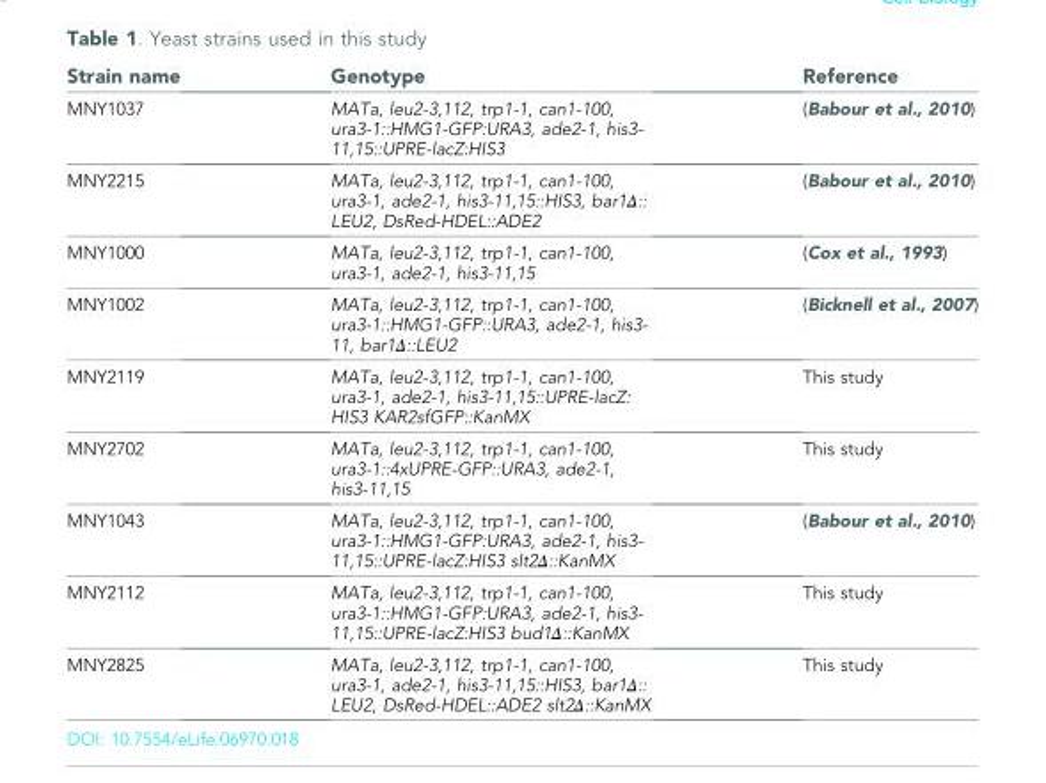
<table><thead><tr><td>Strain name</td><td>Genotype</td><td>Reference</td></tr></thead><tbody><tr><td>MNY1037</td><td>MATa, leu2-3,112, trp1-1, can1-100, ura3-1::HMG1-GFP:URA3, ade2-1, his3- 11,15::UPRE-lacZ:HIS3</td><td>(Babour et al., 2010)</td></tr><tr><td>MNY2215</td><td>MATa, leu2-3,112, trp1-1, can1-100, ura3-1, ade2-1, his3-11,15::HIS3, bar1Δ:: LEU2, DsRed-HDEL::ADE2</td><td>(Babour et al., 2010)</td></tr><tr><td>MNY1000</td><td>MATa, leu2-3,112, trp1-1, can1-100, ura3-1, ade2-1, his3-11,15</td><td>(Cox et al., 1993)</td></tr><tr><td>MNY1002</td><td>MATa, leu2-3,112, trp1-1, can1-100, ura3-1::HMG1-GFP::URA3, ade2-1, his3- 11, bar1Δ::LEU2</td><td>(Bicknell et al., 2007)</td></tr><tr><td>MNY2119</td><td>MATa, leu2-3,112, trp1-1, can1-100, ura3-1, ade2-1, his3-11,15::UPRE-lacZ: HIS3 KAR2sfGFP::KanMX</td><td>This study</td></tr><tr><td>MNY2702</td><td>MATa, leu2-3,112, trp1-1, can1-100, ura3-1::4xUPRE-GFP::URA3, ade2-1, his3-11,15</td><td>This study</td></tr><tr><td>MNY1043</td><td>MATa, leu2-3,112, trp1-1, can1-100, ura3-1::HMG1-GFP:URA3, ade2-1, his3- 11,15::UPRE-lacZ:HIS3 slt2Δ::KanMX</td><td>(Babour et al., 2010)</td></tr><tr><td>MNY2112</td><td>MATa, leu2-3,112, trp1-1, can1-100, ura3-1::HMG1-GFP:URA3, ade2-1, his3- 11,15::UPRE-lacZ:HIS3 bud1Δ::KanMX</td><td>This study</td></tr><tr><td>MNY2825</td><td>MATa, leu2-3,112, trp1-1, can1-100, ura3-1, ade2-1, his3-11,15::HIS3, bar1Δ:: LEU2, DsRed-HDEL::ADE2 slt2Δ::KanMX</td><td>This study</td></tr></tbody></table>